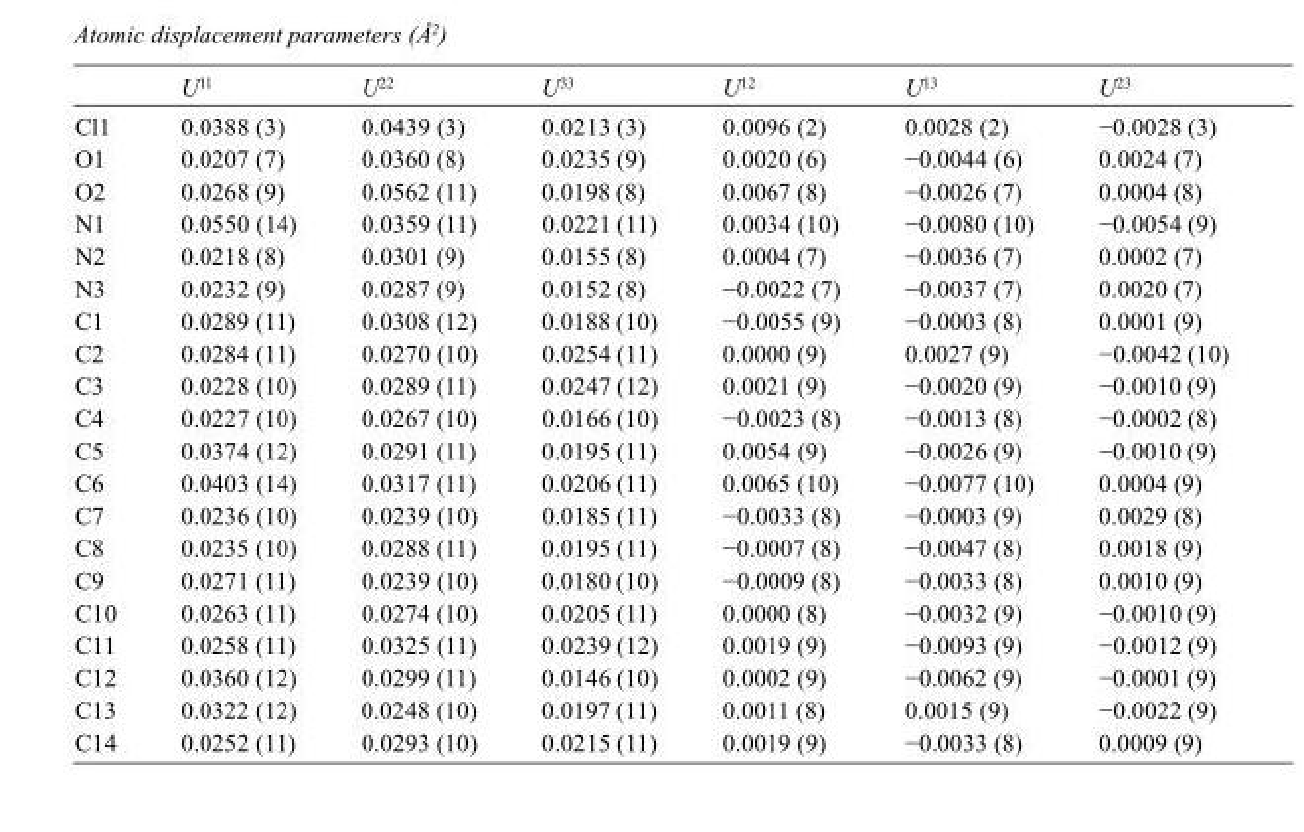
<table><thead><tr><td></td><td>U<sup>11</sup></td><td>U<sup>22</sup></td><td>U<sup>33</sup></td><td>U<sup>12</sup></td><td>U<sup>13</sup></td><td>U<sup>23</sup></td></tr></thead><tbody><tr><td>Cl1</td><td>0.0388 (3)</td><td>0.0439 (3)</td><td>0.0213 (3)</td><td>0.0096 (2)</td><td>0.0028 (2)</td><td>−0.0028 (3)</td></tr><tr><td>O1</td><td>0.0207 (7)</td><td>0.0360 (8)</td><td>0.0235 (9)</td><td>0.0020 (6)</td><td>−0.0044 (6)</td><td>0.0024 (7)</td></tr><tr><td>O2</td><td>0.0268 (9)</td><td>0.0562 (11)</td><td>0.0198 (8)</td><td>0.0067 (8)</td><td>−0.0026 (7)</td><td>0.0004 (8)</td></tr><tr><td>N1</td><td>0.0550 (14)</td><td>0.0359 (11)</td><td>0.0221 (11)</td><td>0.0034 (10)</td><td>−0.0080 (10)</td><td>−0.0054 (9)</td></tr><tr><td>N2</td><td>0.0218 (8)</td><td>0.0301 (9)</td><td>0.0155 (8)</td><td>0.0004 (7)</td><td>−0.0036 (7)</td><td>0.0002 (7)</td></tr><tr><td>N3</td><td>0.0232 (9)</td><td>0.0287 (9)</td><td>0.0152 (8)</td><td>−0.0022 (7)</td><td>−0.0037 (7)</td><td>0.0020 (7)</td></tr><tr><td>C1</td><td>0.0289 (11)</td><td>0.0308 (12)</td><td>0.0188 (10)</td><td>−0.0055 (9)</td><td>−0.0003 (8)</td><td>0.0001 (9)</td></tr><tr><td>C2</td><td>0.0284 (11)</td><td>0.0270 (10)</td><td>0.0254 (11)</td><td>0.0000 (9)</td><td>0.0027 (9)</td><td>−0.0042 (10)</td></tr><tr><td>C3</td><td>0.0228 (10)</td><td>0.0289 (11)</td><td>0.0247 (12)</td><td>0.0021 (9)</td><td>−0.0020 (9)</td><td>−0.0010 (9)</td></tr><tr><td>C4</td><td>0.0227 (10)</td><td>0.0267 (10)</td><td>0.0166 (10)</td><td>−0.0023 (8)</td><td>−0.0013 (8)</td><td>−0.0002 (8)</td></tr><tr><td>C5</td><td>0.0374 (12)</td><td>0.0291 (11)</td><td>0.0195 (11)</td><td>0.0054 (9)</td><td>−0.0026 (9)</td><td>−0.0010 (9)</td></tr><tr><td>C6</td><td>0.0403 (14)</td><td>0.0317 (11)</td><td>0.0206 (11)</td><td>0.0065 (10)</td><td>−0.0077 (10)</td><td>0.0004 (9)</td></tr><tr><td>C7</td><td>0.0236 (10)</td><td>0.0239 (10)</td><td>0.0185 (11)</td><td>−0.0033 (8)</td><td>−0.0003 (9)</td><td>0.0029 (8)</td></tr><tr><td>C8</td><td>0.0235 (10)</td><td>0.0288 (11)</td><td>0.0195 (11)</td><td>−0.0007 (8)</td><td>−0.0047 (8)</td><td>0.0018 (9)</td></tr><tr><td>C9</td><td>0.0271 (11)</td><td>0.0239 (10)</td><td>0.0180 (10)</td><td>−0.0009 (8)</td><td>−0.0033 (8)</td><td>0.0010 (9)</td></tr><tr><td>C10</td><td>0.0263 (11)</td><td>0.0274 (10)</td><td>0.0205 (11)</td><td>0.0000 (8)</td><td>−0.0032 (9)</td><td>−0.0010 (9)</td></tr><tr><td>C11</td><td>0.0258 (11)</td><td>0.0325 (11)</td><td>0.0239 (12)</td><td>0.0019 (9)</td><td>−0.0093 (9)</td><td>−0.0012 (9)</td></tr><tr><td>C12</td><td>0.0360 (12)</td><td>0.0299 (11)</td><td>0.0146 (10)</td><td>0.0002 (9)</td><td>−0.0062 (9)</td><td>−0.0001 (9)</td></tr><tr><td>C13</td><td>0.0322 (12)</td><td>0.0248 (10)</td><td>0.0197 (11)</td><td>0.0011 (8)</td><td>0.0015 (9)</td><td>−0.0022 (9)</td></tr><tr><td>C14</td><td>0.0252 (11)</td><td>0.0293 (10)</td><td>0.0215 (11)</td><td>0.0019 (9)</td><td>−0.0033 (8)</td><td>0.0009 (9)</td></tr></tbody></table>